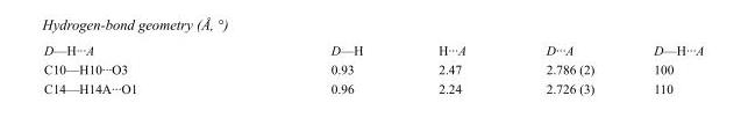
<table><tbody><tr><td>D—H···A</td><td>D—H</td><td>H···A</td><td>D···A</td><td>D—H···A</td></tr><tr><td>C10—H10···O3</td><td>0.93</td><td>2.47</td><td>2.786 (2)</td><td>100</td></tr><tr><td>C14—H14A···O1</td><td>0.96</td><td>2.24</td><td>2.726 (3)</td><td>110</td></tr></tbody></table>